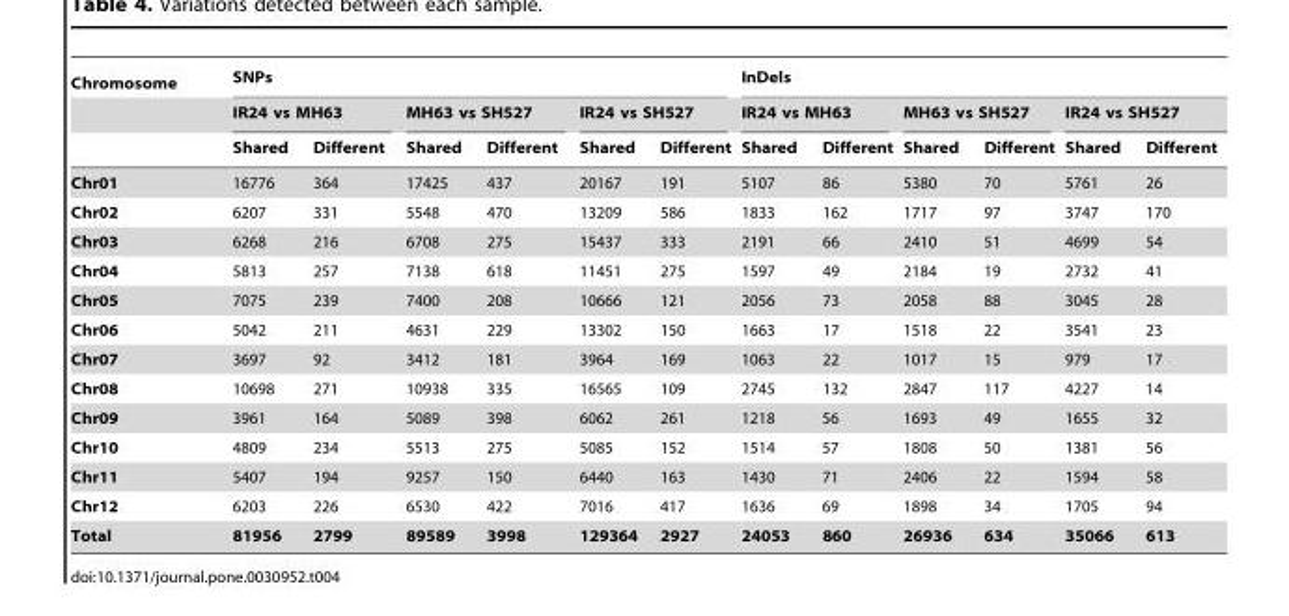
<table><thead><tr><td rowspan="3">Chromosome</td><td colspan="6">SNPs</td><td colspan="6">InDels</td></tr><tr><td colspan="2">IR24 vs MH63</td><td colspan="2">MH63 vs SH527</td><td colspan="2">IR24 vs SH527</td><td colspan="2">IR24 vs MH63</td><td colspan="2">MH63 vs SH527</td><td colspan="2">IR24 vs SH527</td></tr><tr><td>Shared</td><td>Different</td><td>Shared</td><td>Different</td><td>Shared</td><td>Different</td><td>Shared</td><td>Different</td><td>Shared</td><td>Different</td><td>Shared</td><td>Different</td></tr></thead><tbody><tr><td>Chr01</td><td>16776</td><td>364</td><td>17425</td><td>437</td><td>20167</td><td>191</td><td>5107</td><td>86</td><td>5380</td><td>70</td><td>5761</td><td>26</td></tr><tr><td>Chr02</td><td>6207</td><td>331</td><td>5548</td><td>470</td><td>13209</td><td>586</td><td>1833</td><td>162</td><td>1717</td><td>97</td><td>3747</td><td>170</td></tr><tr><td>Chr03</td><td>6268</td><td>216</td><td>6708</td><td>275</td><td>15437</td><td>333</td><td>2191</td><td>66</td><td>2410</td><td>51</td><td>4699</td><td>54</td></tr><tr><td>Chr04</td><td>5813</td><td>257</td><td>7138</td><td>618</td><td>11451</td><td>275</td><td>1597</td><td>49</td><td>2184</td><td>19</td><td>2732</td><td>41</td></tr><tr><td>Chr05</td><td>7075</td><td>239</td><td>7400</td><td>208</td><td>10666</td><td>121</td><td>2056</td><td>73</td><td>2058</td><td>88</td><td>3045</td><td>28</td></tr><tr><td>Chr06</td><td>5042</td><td>211</td><td>4631</td><td>229</td><td>13302</td><td>150</td><td>1663</td><td>17</td><td>1518</td><td>22</td><td>3541</td><td>23</td></tr><tr><td>Chr07</td><td>3697</td><td>92</td><td>3412</td><td>181</td><td>3964</td><td>169</td><td>1063</td><td>22</td><td>1017</td><td>15</td><td>979</td><td>17</td></tr><tr><td>Chr08</td><td>10698</td><td>271</td><td>10938</td><td>335</td><td>16565</td><td>109</td><td>2745</td><td>132</td><td>2847</td><td>117</td><td>4227</td><td>14</td></tr><tr><td>Chr09</td><td>3961</td><td>164</td><td>5089</td><td>398</td><td>6062</td><td>261</td><td>1218</td><td>56</td><td>1693</td><td>49</td><td>1655</td><td>32</td></tr><tr><td>Chr10</td><td>4809</td><td>234</td><td>5513</td><td>275</td><td>5085</td><td>152</td><td>1514</td><td>57</td><td>1808</td><td>50</td><td>1381</td><td>56</td></tr><tr><td>Chr11</td><td>5407</td><td>194</td><td>9257</td><td>150</td><td>6440</td><td>163</td><td>1430</td><td>71</td><td>2406</td><td>22</td><td>1594</td><td>58</td></tr><tr><td>Chr12</td><td>6203</td><td>226</td><td>6530</td><td>422</td><td>7016</td><td>417</td><td>1636</td><td>69</td><td>1898</td><td>34</td><td>1705</td><td>94</td></tr><tr><td>Total</td><td>81956</td><td>2799</td><td>89589</td><td>3998</td><td>129364</td><td>2927</td><td>24053</td><td>860</td><td>26936</td><td>634</td><td>35066</td><td>613</td></tr></tbody></table>